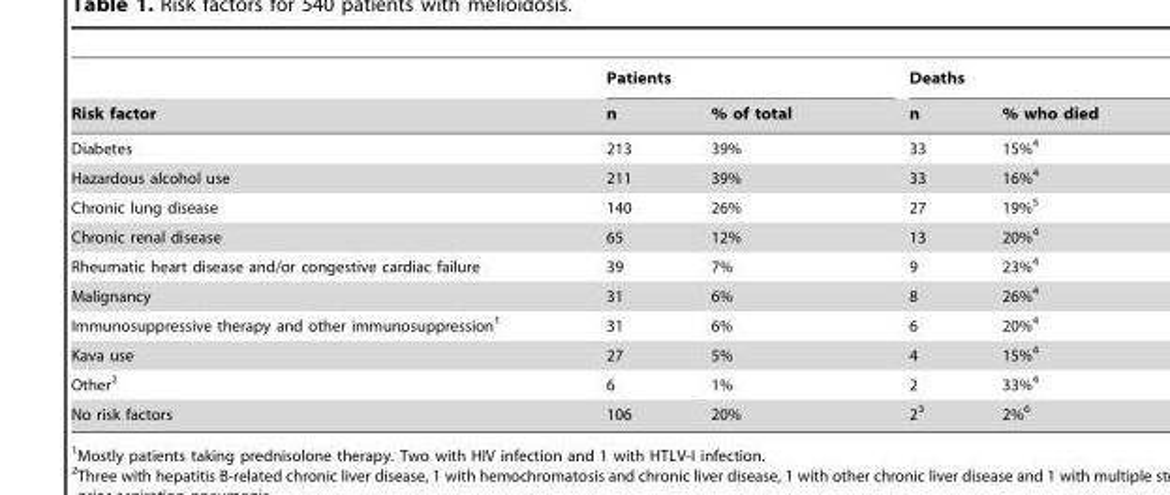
<table><thead><tr><td rowspan="2">Risk factor</td><td colspan="2">Patients</td><td colspan="2">Deaths</td></tr><tr><td>n</td><td>% of total</td><td>n</td><td>% who died</td></tr></thead><tbody><tr><td>Diabetes</td><td>213</td><td>39%</td><td>33</td><td>15%<sup>4</sup></td></tr><tr><td>Hazardous alcohol use</td><td>211</td><td>39%</td><td>33</td><td>16%<sup>4</sup></td></tr><tr><td>Chronic lung disease</td><td>140</td><td>26%</td><td>27</td><td>19%<sup>5</sup></td></tr><tr><td>Chronic renal disease</td><td>65</td><td>12%</td><td>13</td><td>20%<sup>4</sup></td></tr><tr><td>Rheumatic heart disease and/or congestive cardiac failure</td><td>39</td><td>7%</td><td>9</td><td>23%<sup>4</sup></td></tr><tr><td>Malignancy</td><td>31</td><td>6%</td><td>8</td><td>26%<sup>4</sup></td></tr><tr><td>Immunosuppressive therapy and other immunosuppression<sup>1</sup></td><td>31</td><td>6%</td><td>6</td><td>20%<sup>4</sup></td></tr><tr><td>Kava use</td><td>27</td><td>5%</td><td>4</td><td>15%<sup>4</sup></td></tr><tr><td>Other<sup>2</sup></td><td>6</td><td>1%</td><td>2</td><td>33%<sup>4</sup></td></tr><tr><td>No risk factors</td><td>106</td><td>20%</td><td>2<sup>3</sup></td><td>2%<sup>6</sup></td></tr></tbody></table>